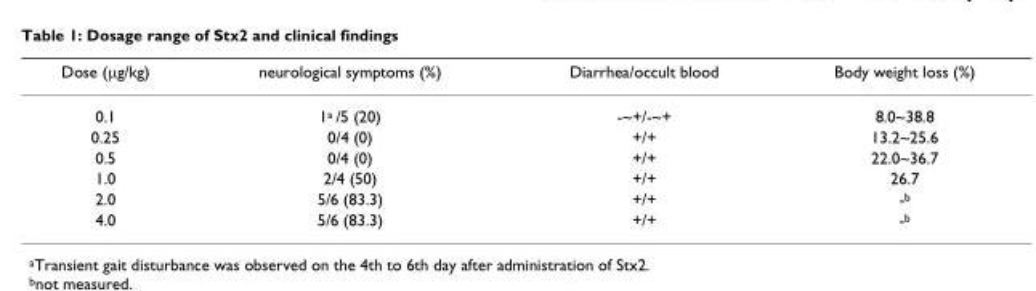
<table><thead><tr><td>Dose (μg/kg)</td><td>neurological symptoms (%)</td><td>Diarrhea/occult blood</td><td>Body weight loss (%)</td></tr></thead><tbody><tr><td>0.1</td><td>1<sup>a</sup> /5 (20)</td><td>-~+/-~+</td><td>8.0~38.8</td></tr><tr><td>0.25</td><td>0/4 (0)</td><td>+/+</td><td>13.2~25.6</td></tr><tr><td>0.5</td><td>0/4 (0)</td><td>+/+</td><td>22.0~36.7</td></tr><tr><td>1.0</td><td>2/4 (50)</td><td>+/+</td><td>26.7</td></tr><tr><td>2.0</td><td>5/6 (83.3)</td><td>+/+</td><td>-<sup>b</sup></td></tr><tr><td>4.0</td><td>5/6 (83.3)</td><td>+/+</td><td>-<sup>b</sup></td></tr></tbody></table>